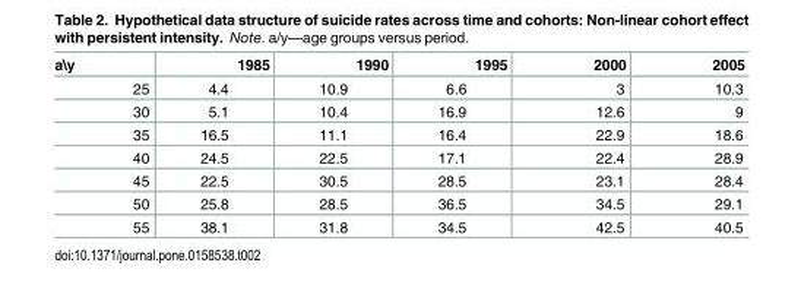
<table><thead><tr><td>a\y</td><td>1985</td><td>1990</td><td>1995</td><td>2000</td><td>2005</td></tr></thead><tbody><tr><td>25</td><td>4.4</td><td>10.9</td><td>6.6</td><td>3</td><td>10.3</td></tr><tr><td>30</td><td>5.1</td><td>10.4</td><td>16.9</td><td>12.6</td><td>9</td></tr><tr><td>35</td><td>16.5</td><td>11.1</td><td>16.4</td><td>22.9</td><td>18.6</td></tr><tr><td>40</td><td>24.5</td><td>22.5</td><td>17.1</td><td>22.4</td><td>28.9</td></tr><tr><td>45</td><td>22.5</td><td>30.5</td><td>28.5</td><td>23.1</td><td>28.4</td></tr><tr><td>50</td><td>25.8</td><td>28.5</td><td>36.5</td><td>34.5</td><td>29.1</td></tr><tr><td>55</td><td>38.1</td><td>31.8</td><td>34.5</td><td>42.5</td><td>40.5</td></tr></tbody></table>